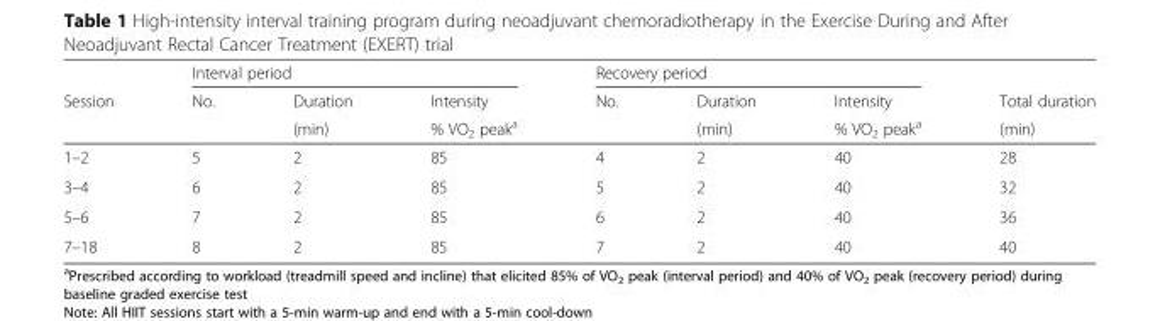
<table><thead><tr><td rowspan="3">Session</td><td colspan="3">Interval period</td><td colspan="3">Recovery period</td><td rowspan="3">Total duration (min)</td></tr><tr><td rowspan="2">No.</td><td rowspan="2">Duration (min)</td><td rowspan="2">Intensity % VO<sub>2</sub> peak<sup>a</sup></td><td rowspan="2">No.</td><td rowspan="2">Duration (min)</td><td rowspan="2">Intensity % VO<sub>2</sub> peak<sup>a</sup></td></tr><tr></tr></thead><tbody><tr><td>1–2</td><td>5</td><td>2</td><td>85</td><td>4</td><td>2</td><td>40</td><td>28</td></tr><tr><td>3–4</td><td>6</td><td>2</td><td>85</td><td>5</td><td>2</td><td>40</td><td>32</td></tr><tr><td>5–6</td><td>7</td><td>2</td><td>85</td><td>6</td><td>2</td><td>40</td><td>36</td></tr><tr><td>7–18</td><td>8</td><td>2</td><td>85</td><td>7</td><td>2</td><td>40</td><td>40</td></tr></tbody></table>